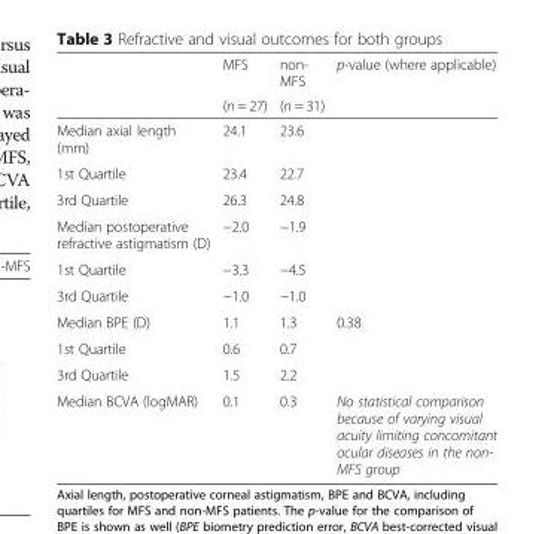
<table><thead><tr><td rowspan="2"></td><td rowspan="2">MFS (n = 27)</td><td rowspan="2">non- MFS (n = 31)</td><td rowspan="2">p-value (where applicable)</td></tr><tr></tr></thead><tbody><tr><td>Median axial length (mm)</td><td>24.1</td><td>23.6</td><td></td></tr><tr><td>1st Quartile</td><td>23.4</td><td>22.7</td><td rowspan="2"></td></tr><tr><td>3rd Quartile</td><td>26.3</td><td>24.8</td></tr><tr><td>Median postoperative refractive astigmatism (D)</td><td>−2.0</td><td>−1.9</td><td></td></tr><tr><td>1st Quartile</td><td>−3.3</td><td>−4.5</td><td rowspan="2"></td></tr><tr><td>3rd Quartile</td><td>−1.0</td><td>−1.0</td></tr><tr><td>Median BPE (D)</td><td>1.1</td><td>1.3</td><td>0.38</td></tr><tr><td>1st Quartile</td><td>0.6</td><td>0.7</td><td rowspan="2"></td></tr><tr><td>3rd Quartile</td><td>1.5</td><td>2.2</td></tr><tr><td>Median BCVA (logMAR)</td><td>0.1</td><td>0.3</td><td>No statistical comparison because of varying visual acuity limiting concomitant ocular diseases in the non- MFS group</td></tr></tbody></table>